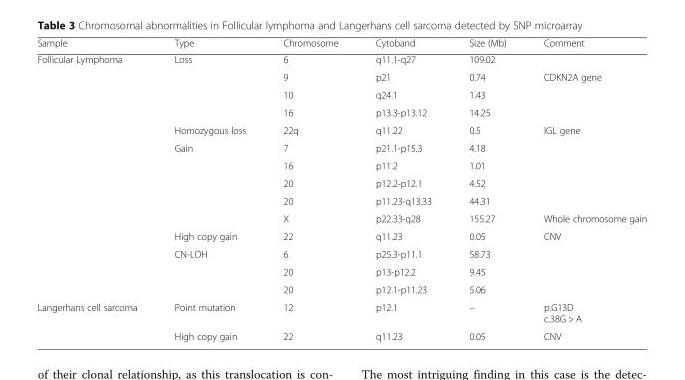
<table><thead><tr><td>Sample</td><td>Type</td><td>Chromosome</td><td>Cytoband</td><td>Size (Mb)</td><td>Comment</td></tr></thead><tbody><tr><td rowspan="14">Follicular Lymphoma</td><td rowspan="4">Loss</td><td>6</td><td>q11.1-q27</td><td>109.02</td><td></td></tr><tr><td>9</td><td>p21</td><td>0.74</td><td>CDKN2A gene</td></tr><tr><td>10</td><td>q24.1</td><td>1.43</td><td></td></tr><tr><td>16</td><td>p13.3-p13.12</td><td>14.25</td><td></td></tr><tr><td>Homozygous loss</td><td>22q</td><td>q11.22</td><td>0.5</td><td>IGL gene</td></tr><tr><td rowspan="5">Gain</td><td>7</td><td>p21.1-p15.3</td><td>4.18</td><td></td></tr><tr><td>16</td><td>p11.2</td><td>1.01</td><td></td></tr><tr><td>20</td><td>p12.2-p12.1</td><td>4.52</td><td></td></tr><tr><td>20</td><td>p11.23-q13.33</td><td>44.31</td><td></td></tr><tr><td>X</td><td>p22.33-q28</td><td>155.27</td><td>Whole chromosome gain</td></tr><tr><td>High copy gain</td><td>22</td><td>q11.23</td><td>0.05</td><td>CNV</td></tr><tr><td rowspan="3">CN-LOH</td><td>6</td><td>p25.3-p11.1</td><td>58.73</td><td></td></tr><tr><td>20</td><td>p13-p12.2</td><td>9.45</td><td></td></tr><tr><td>20</td><td>p12.1-p11.23</td><td>5.06</td><td></td></tr><tr><td rowspan="2">Langerhans cell sarcoma</td><td>Point mutation</td><td>12</td><td>p12.1</td><td>–</td><td>p.G13D c.38G &gt; A</td></tr><tr><td>High copy gain</td><td>22</td><td>q11.23</td><td>0.05</td><td>CNV</td></tr></tbody></table>